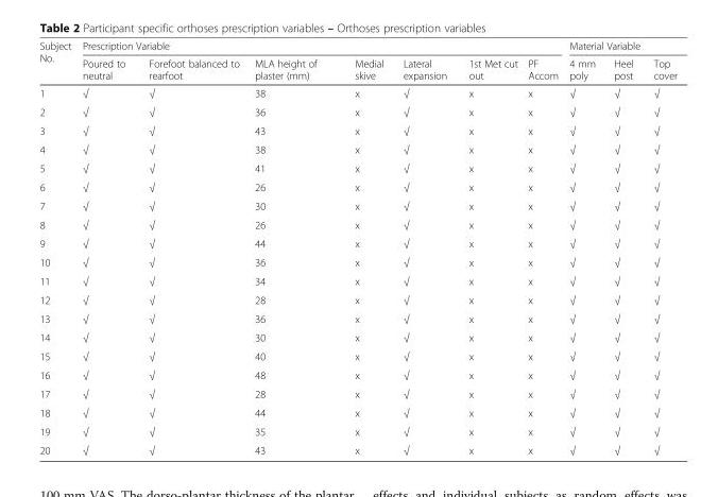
<table><thead><tr><td rowspan="2">Subject No.</td><td colspan="7">Prescription Variable</td><td colspan="3">Material Variable</td></tr><tr><td>Poured to neutral</td><td>Forefoot balanced to rearfoot</td><td>MLA height of plaster (mm)</td><td>Medial skive</td><td>Lateral expansion</td><td>1st Met cut out</td><td>PF Accom</td><td>4 mm poly</td><td>Heel post</td><td>Top cover</td></tr></thead><tbody><tr><td>1</td><td>√</td><td>√</td><td>38</td><td>x</td><td>√</td><td>x</td><td>x</td><td>√</td><td>√</td><td>√</td></tr><tr><td>2</td><td>√</td><td>√</td><td>36</td><td>x</td><td>√</td><td>x</td><td>x</td><td>√</td><td>√</td><td>√</td></tr><tr><td>3</td><td>√</td><td>√</td><td>43</td><td>x</td><td>√</td><td>x</td><td>x</td><td>√</td><td>√</td><td>√</td></tr><tr><td>4</td><td>√</td><td>√</td><td>38</td><td>x</td><td>√</td><td>x</td><td>x</td><td>√</td><td>√</td><td>√</td></tr><tr><td>5</td><td>√</td><td>√</td><td>41</td><td>x</td><td>√</td><td>x</td><td>x</td><td>√</td><td>√</td><td>√</td></tr><tr><td>6</td><td>√</td><td>√</td><td>26</td><td>x</td><td>√</td><td>x</td><td>x</td><td>√</td><td>√</td><td>√</td></tr><tr><td>7</td><td>√</td><td>√</td><td>30</td><td>x</td><td>√</td><td>x</td><td>x</td><td>√</td><td>√</td><td>√</td></tr><tr><td>8</td><td>√</td><td>√</td><td>26</td><td>x</td><td>√</td><td>x</td><td>x</td><td>√</td><td>√</td><td>√</td></tr><tr><td>9</td><td>√</td><td>√</td><td>44</td><td>x</td><td>√</td><td>x</td><td>x</td><td>√</td><td>√</td><td>√</td></tr><tr><td>10</td><td>√</td><td>√</td><td>36</td><td>x</td><td>√</td><td>x</td><td>x</td><td>√</td><td>√</td><td>√</td></tr><tr><td>11</td><td>√</td><td>√</td><td>34</td><td>x</td><td>√</td><td>x</td><td>x</td><td>√</td><td>√</td><td>√</td></tr><tr><td>12</td><td>√</td><td>√</td><td>28</td><td>x</td><td>√</td><td>x</td><td>x</td><td>√</td><td>√</td><td>√</td></tr><tr><td>13</td><td>√</td><td>√</td><td>36</td><td>x</td><td>√</td><td>x</td><td>x</td><td>√</td><td>√</td><td>√</td></tr><tr><td>14</td><td>√</td><td>√</td><td>30</td><td>x</td><td>√</td><td>x</td><td>x</td><td>√</td><td>√</td><td>√</td></tr><tr><td>15</td><td>√</td><td>√</td><td>40</td><td>x</td><td>√</td><td>x</td><td>x</td><td>√</td><td>√</td><td>√</td></tr><tr><td>16</td><td>√</td><td>√</td><td>48</td><td>x</td><td>√</td><td>x</td><td>x</td><td>√</td><td>√</td><td>√</td></tr><tr><td>17</td><td>√</td><td>√</td><td>28</td><td>x</td><td>√</td><td>x</td><td>x</td><td>√</td><td>√</td><td>√</td></tr><tr><td>18</td><td>√</td><td>√</td><td>44</td><td>x</td><td>√</td><td>x</td><td>x</td><td>√</td><td>√</td><td>√</td></tr><tr><td>19</td><td>√</td><td>√</td><td>35</td><td>x</td><td>√</td><td>x</td><td>x</td><td>√</td><td>√</td><td>√</td></tr><tr><td>20</td><td>√</td><td>√</td><td>43</td><td>x</td><td>√</td><td>x</td><td>x</td><td>√</td><td>√</td><td>√</td></tr></tbody></table>